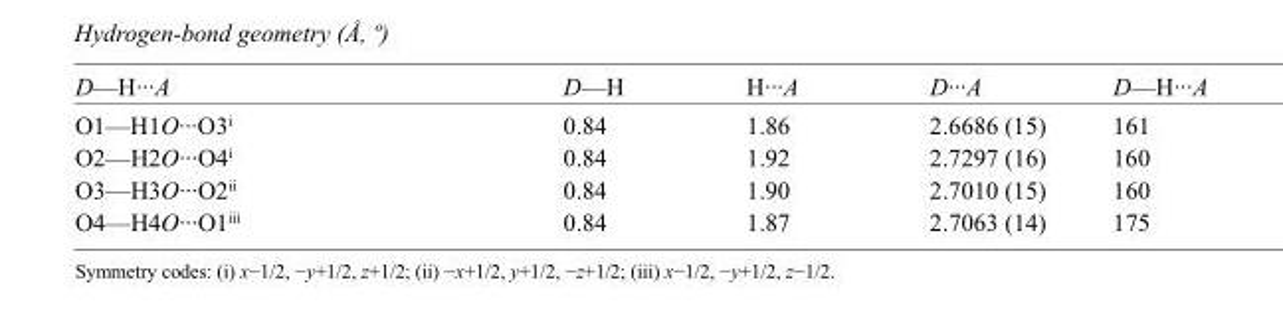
<table><tbody><tr><td>D—H···A</td><td>D—H</td><td>H···A</td><td>D···A</td><td>D—H···A</td></tr><tr><td>O1—H1O···O3<sup>i</sup></td><td>0.84</td><td>1.86</td><td>2.6686 (15)</td><td>161</td></tr><tr><td>O2—H2O···O4<sup>i</sup></td><td>0.84</td><td>1.92</td><td>2.7297 (16)</td><td>160</td></tr><tr><td>O3—H3O···O2<sup>ii</sup></td><td>0.84</td><td>1.90</td><td>2.7010 (15)</td><td>160</td></tr><tr><td>O4—H4O···O1<sup>iii</sup></td><td>0.84</td><td>1.87</td><td>2.7063 (14)</td><td>175</td></tr></tbody></table>